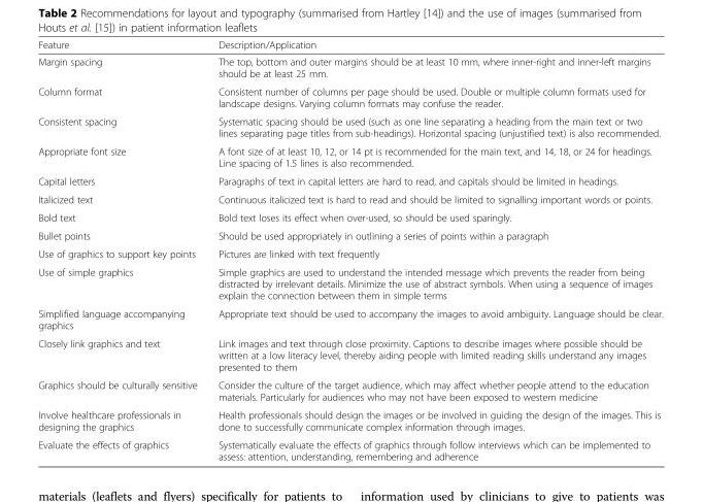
<table><thead><tr><td>Feature</td><td>Description/Application</td></tr></thead><tbody><tr><td>Margin spacing</td><td>The top, bottom and outer margins should be at least 10 mm, where inner-right and inner-left margins should be at least 25 mm.</td></tr><tr><td>Column format</td><td>Consistent number of columns per page should be used. Double or multiple column formats used for landscape designs. Varying column formats may confuse the reader.</td></tr><tr><td>Consistent spacing</td><td>Systematic spacing should be used (such as one line separating a heading from the main text or two lines separating page titles from sub-headings). Horizontal spacing (unjustified text) is also recommended.</td></tr><tr><td>Appropriate font size</td><td>A font size of at least 10, 12, or 14 pt is recommended for the main text, and 14, 18, or 24 for headings. Line spacing of 1.5 lines is also recommended.</td></tr><tr><td>Capital letters</td><td>Paragraphs of text in capital letters are hard to read, and capitals should be limited in headings.</td></tr><tr><td>Italicized text</td><td>Continuous italicized text is hard to read and should be limited to signalling important words or points.</td></tr><tr><td>Bold text</td><td>Bold text loses its effect when over-used, so should be used sparingly.</td></tr><tr><td>Bullet points</td><td>Should be used appropriately in outlining a series of points within a paragraph</td></tr><tr><td>Use of graphics to support key points</td><td>Pictures are linked with text frequently</td></tr><tr><td>Use of simple graphics</td><td>Simple graphics are used to understand the intended message which prevents the reader from being distracted by irrelevant details. Minimize the use of abstract symbols. When using a sequence of images explain the connection between them in simple terms</td></tr><tr><td>Simplified language accompanying graphics</td><td>Appropriate text should be used to accompany the images to avoid ambiguity. Language should be clear.</td></tr><tr><td>Closely link graphics and text</td><td>Link images and text through close proximity. Captions to describe images where possible should be written at a low literacy level, thereby aiding people with limited reading skills understand any images presented to them</td></tr><tr><td>Graphics should be culturally sensitive</td><td>Consider the culture of the target audience, which may affect whether people attend to the education materials. Particularly for audiences who may not have been exposed to western medicine</td></tr><tr><td>Involve healthcare professionals in designing the graphics</td><td>Health professionals should design the images or be involved in guiding the design of the images. This is done to successfully communicate complex information through images.</td></tr><tr><td>Evaluate the effects of graphics</td><td>Systematically evaluate the effects of graphics through follow interviews which can be implemented to assess: attention, understanding, remembering and adherence</td></tr></tbody></table>